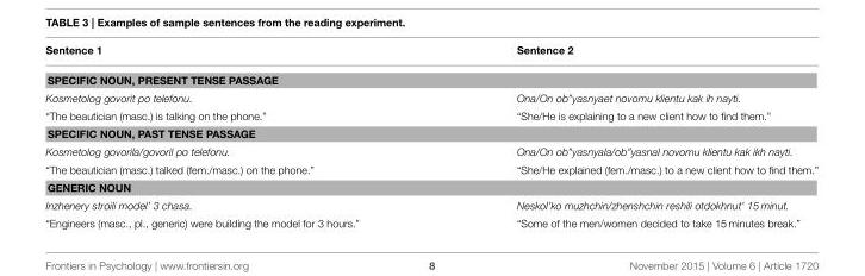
<table><thead><tr><td>Sentence 1</td><td>Sentence 2</td></tr></thead><tbody><tr><td colspan="2">SPECIFIC NOUN, PRESENT TENSE PASSAGE</td></tr><tr><td>Kosmetolog govorit po telefonu.</td><td>Ona/On ob”yasnyaet novomu klientu kak ih nayti.</td></tr><tr><td>“The beautician (masc.) is talking on the phone.”</td><td>“She/He is explaining to a new client how to find them.”</td></tr><tr><td colspan="2">SPECIFIC NOUN, PAST TENSE PASSAGE</td></tr><tr><td>Kosmetolog govorila/govoril po telefonu.</td><td>Ona/On ob”yasnyala/ob”yasnal novomu klientu kak ikh nayti.</td></tr><tr><td>“The beautician (masc.) talked (fem./masc.) on the phone.”</td><td>“She/He explained (fem./masc.) to a new client how to find them.”</td></tr><tr><td colspan="2">GENERIC NOUN</td></tr><tr><td>Inzhenery stroili model’ 3 chasa.</td><td>Neskol’ko muzhchin/zhenshchin reshili otdokhnut’ 15 minut.</td></tr><tr><td>“Engineers (masc., pl., generic) were building the model for 3 hours.”</td><td>“Some of the men/women decided to take 15 minutes break.”</td></tr></tbody></table>